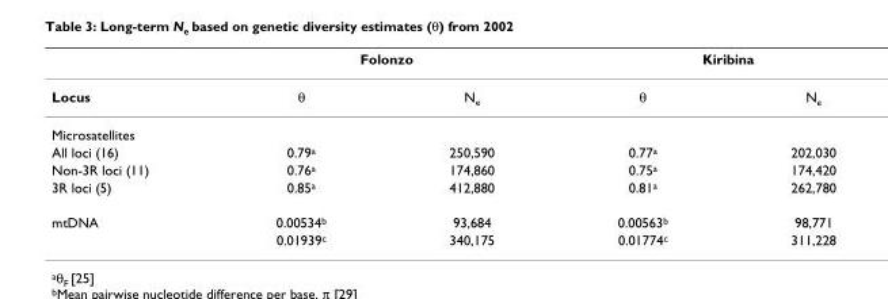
<table><thead><tr><td rowspan="2">Locus</td><td colspan="2">Folonzo</td><td colspan="2">Kiribina</td></tr><tr><td>θ</td><td>N<sub>e</sub></td><td>θ</td><td>N<sub>e</sub></td></tr></thead><tbody><tr><td colspan="5">Microsatellites</td></tr><tr><td>All loci (16)</td><td>0.79<sup>a</sup></td><td>250,590</td><td>0.77<sup>a</sup></td><td>202,030</td></tr><tr><td>Non-3R loci (11)</td><td>0.76<sup>a</sup></td><td>174,860</td><td>0.75<sup>a</sup></td><td>174,420</td></tr><tr><td>3R loci (5)</td><td>0.85<sup>a</sup></td><td>412,880</td><td>0.81<sup>a</sup></td><td>262,780</td></tr><tr><td rowspan="2">mtDNA</td><td>0.00534<sup>b</sup></td><td>93,684</td><td>0.00563<sup>b</sup></td><td>98,771</td></tr><tr><td>0.01939<sup>c</sup></td><td>340,175</td><td>0.01774<sup>c</sup></td><td>311,228</td></tr></tbody></table>